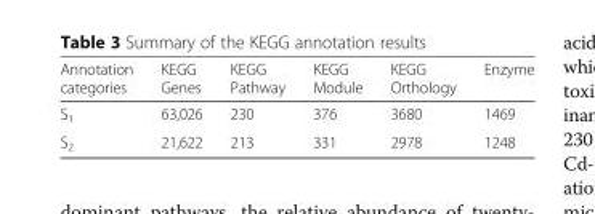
<table><thead><tr><td>Annotation categories</td><td>KEGG Genes</td><td>KEGG Pathway</td><td>KEGG Module</td><td>KEGG Orthology</td><td>Enzyme</td></tr></thead><tbody><tr><td>S<sub>1</sub></td><td>63,026</td><td>230</td><td>376</td><td>3680</td><td>1469</td></tr><tr><td>S<sub>2</sub></td><td>21,622</td><td>213</td><td>331</td><td>2978</td><td>1248</td></tr></tbody></table>